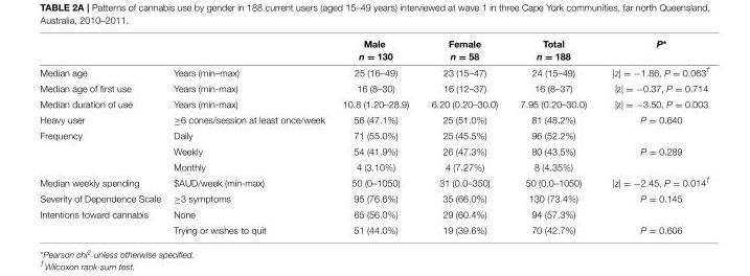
<table><thead><tr><td></td><td></td><td>Male n = 130</td><td>Female n = 58</td><td>Total n = 188</td><td>P*</td></tr></thead><tbody><tr><td>Median age</td><td>Years (min–max)</td><td>25 (16–49)</td><td>23 (15–47)</td><td>24 (15–49)</td><td>|z| = −1.86, P = 0.063<sup>†</sup></td></tr><tr><td>Median age of first use</td><td>Years (min-max)</td><td>16 (8–30)</td><td>16 (12–37)</td><td>16 (8–37)</td><td>|z| = −0.37, P = 0.714</td></tr><tr><td>Median duration of use</td><td>Years (min-max)</td><td>10.8 (1.20–28.9)</td><td>6.20 (0.20–30.0)</td><td>7.95 (0.20–30.0)</td><td>|z| = −3.50, P = 0.003</td></tr><tr><td>Heavy user</td><td>≥6 cones/session at least once/week</td><td>56 (47.1%)</td><td>25 (51.0%)</td><td>81 (48.2%)</td><td>P = 0.640</td></tr><tr><td rowspan="3">Frequency</td><td>Daily</td><td>71 (55.0%)</td><td>25 (45.5%)</td><td>96 (52.2%)</td><td></td></tr><tr><td>Weekly</td><td>54 (41.9%)</td><td>26 (47.3%)</td><td>80 (43.5%)</td><td>P = 0.289</td></tr><tr><td>Monthly</td><td>4 (3.10%)</td><td>4 (7.27%)</td><td>8 (4.35%)</td><td></td></tr><tr><td>Median weekly spending</td><td>$AUD/week (min-max)</td><td>50 (0–1050)</td><td>31 (0.0–350)</td><td>50 (0.0–1050)</td><td>|z| = −2.45, P = 0.014<sup>†</sup></td></tr><tr><td>Severity of Dependence Scale</td><td>≥3 symptoms</td><td>95 (76.6%)</td><td>35 (66.0%)</td><td>130 (73.4%)</td><td>P = 0.145</td></tr><tr><td rowspan="2">Intentions toward cannabis</td><td>None</td><td>65 (56.0%)</td><td>29 (60.4%)</td><td>94 (57.3%)</td><td></td></tr><tr><td>Trying or wishes to quit</td><td>51 (44.0%)</td><td>19 (39.6%)</td><td>70 (42.7%)</td><td>P = 0.606</td></tr></tbody></table>